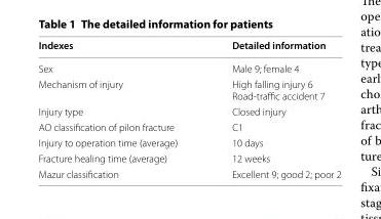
<table><thead><tr><td>Indexes</td><td>Detailed information</td></tr></thead><tbody><tr><td>Sex</td><td>Male 9; female 4</td></tr><tr><td>Mechanism of injury</td><td>High falling injury 6 Road-traffic accident 7</td></tr><tr><td>Injury type</td><td>Closed injury</td></tr><tr><td>AO classification of pilon fracture</td><td>C1</td></tr><tr><td>Injury to operation time (average)</td><td>10 days</td></tr><tr><td>Fracture healing time (average)</td><td>12 weeks</td></tr><tr><td>Mazur classification</td><td>Excellent 9; good 2; poor 2</td></tr></tbody></table>